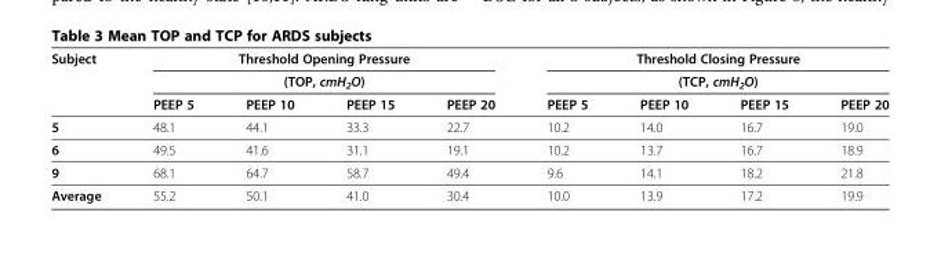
<table><thead><tr><td rowspan="3">Subject</td><td rowspan="2" colspan="4">Threshold Opening Pressure (TOP, cmH<sub>2</sub>O)</td><td rowspan="2" colspan="4">Threshold Closing Pressure (TCP, cmH<sub>2</sub>O)</td></tr><tr></tr><tr><td>PEEP 5</td><td>PEEP 10</td><td>PEEP 15</td><td>PEEP 20</td><td>PEEP 5</td><td>PEEP 10</td><td>PEEP 15</td><td>PEEP 20</td></tr></thead><tbody><tr><td>5</td><td>48.1</td><td>44.1</td><td>33.3</td><td>22.7</td><td>10.2</td><td>14.0</td><td>16.7</td><td>19.0</td></tr><tr><td>6</td><td>49.5</td><td>41.6</td><td>31.1</td><td>19.1</td><td>10.2</td><td>13.7</td><td>16.7</td><td>18.9</td></tr><tr><td>9</td><td>68.1</td><td>64.7</td><td>58.7</td><td>49.4</td><td>9.6</td><td>14.1</td><td>18.2</td><td>21.8</td></tr><tr><td>Average</td><td>55.2</td><td>50.1</td><td>41.0</td><td>30.4</td><td>10.0</td><td>13.9</td><td>17.2</td><td>19.9</td></tr></tbody></table>